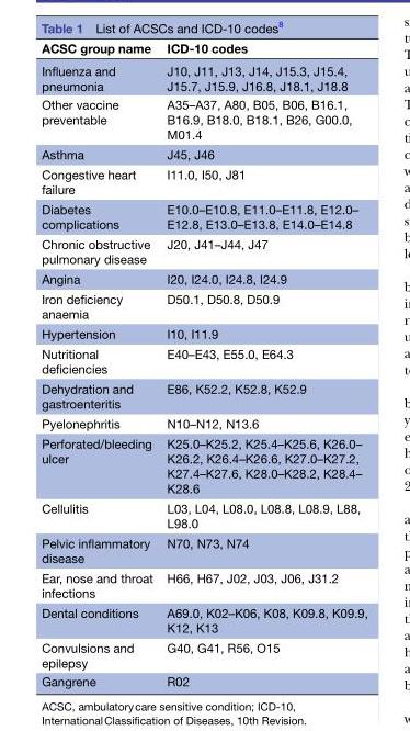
<table><thead><tr><td>ACSC group name</td><td>ICD-10 codes</td></tr></thead><tbody><tr><td>Influenza and pneumonia</td><td>J10, J11, J13, J14, J15.3, J15.4, J15.7, J15.9, J16.8, J18.1, J18.8</td></tr><tr><td>Other vaccine preventable</td><td>A35–A37, A80, B05, B06, B16.1, B16.9, B18.0, B18.1, B26, G00.0, M01.4</td></tr><tr><td>Asthma</td><td>J45, J46</td></tr><tr><td>Congestive heart failure</td><td>I11.0, I50, J81</td></tr><tr><td>Diabetes complications</td><td>E10.0–E10.8, E11.0–E11.8, E12.0– E12.8, E13.0–E13.8, E14.0–E14.8</td></tr><tr><td>Chronic obstructive pulmonary disease</td><td>J20, J41–J44, J47</td></tr><tr><td>Angina</td><td>I20, I24.0, I24.8, I24.9</td></tr><tr><td>Iron deficiency anaemia</td><td>D50.1, D50.8, D50.9</td></tr><tr><td>Hypertension</td><td>I10, I11.9</td></tr><tr><td>Nutritional deficiencies</td><td>E40–E43, E55.0, E64.3</td></tr><tr><td>Dehydration and gastroenteritis</td><td>E86, K52.2, K52.8, K52.9</td></tr><tr><td>Pyelonephritis</td><td>N10–N12, N13.6</td></tr><tr><td>Perforated/bleeding ulcer</td><td>K25.0–K25.2, K25.4–K25.6, K26.0– K26.2, K26.4–K26.6, K27.0–K27.2, K27.4–K27.6, K28.0–K28.2, K28.4– K28.6</td></tr><tr><td>Cellulitis</td><td>L03, L04, L08.0, L08.8, L08.9, L88, L98.0</td></tr><tr><td>Pelvic inflammatory disease</td><td>N70, N73, N74</td></tr><tr><td>Ear, nose and throat infections</td><td>H66, H67, J02, J03, J06, J31.2</td></tr><tr><td>Dental conditions</td><td>A69.0, K02–K06, K08, K09.8, K09.9, K12, K13</td></tr><tr><td>Convulsions and epilepsy</td><td>G40, G41, R56, O15</td></tr><tr><td>Gangrene</td><td>R02</td></tr></tbody></table>